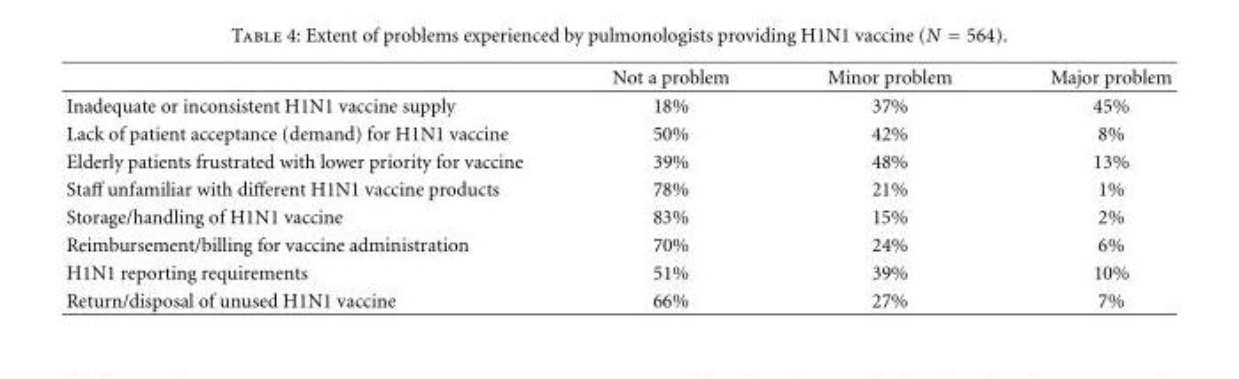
<table><thead><tr><td></td><td>Not a problem</td><td>Minor problem</td><td>Major problem</td></tr></thead><tbody><tr><td>Inadequate or inconsistent H1N1 vaccine supply</td><td>18%</td><td>37%</td><td>45%</td></tr><tr><td>Lack of patient acceptance (demand) for H1N1 vaccine</td><td>50%</td><td>42%</td><td>8%</td></tr><tr><td>Elderly patients frustrated with lower priority for vaccine</td><td>39%</td><td>48%</td><td>13%</td></tr><tr><td>Staff unfamiliar with different H1N1 vaccine products</td><td>78%</td><td>21%</td><td>1%</td></tr><tr><td>Storage/handling of H1N1 vaccine</td><td>83%</td><td>15%</td><td>2%</td></tr><tr><td>Reimbursement/billing for vaccine administration</td><td>70%</td><td>24%</td><td>6%</td></tr><tr><td>H1N1 reporting requirements</td><td>51%</td><td>39%</td><td>10%</td></tr><tr><td>Return/disposal of unused H1N1 vaccine</td><td>66%</td><td>27%</td><td>7%</td></tr></tbody></table>